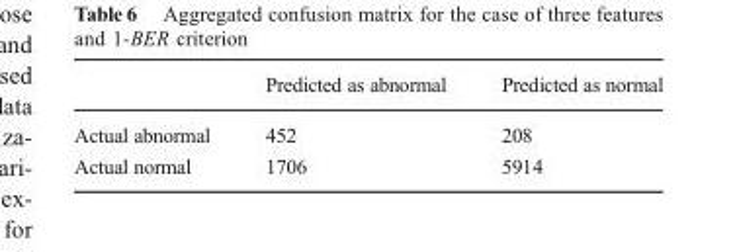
<table><thead><tr><td></td><td>Predicted as abnormal</td><td>Predicted as normal</td></tr></thead><tbody><tr><td>Actual abnormal</td><td>452</td><td>208</td></tr><tr><td>Actual normal</td><td>1706</td><td>5914</td></tr></tbody></table>